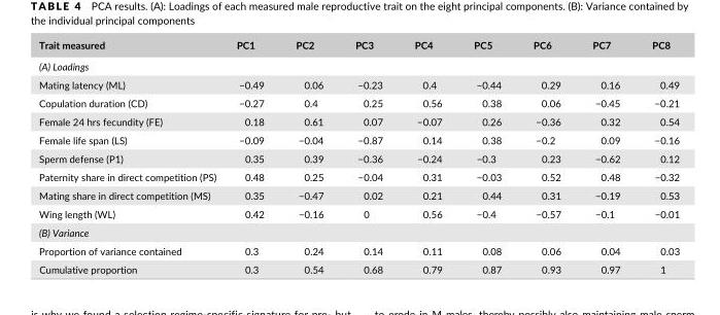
<table><thead><tr><td>Trait measured</td><td>PC1</td><td>PC2</td><td>PC3</td><td>PC4</td><td>PC5</td><td>PC6</td><td>PC7</td><td>PC8</td></tr></thead><tbody><tr><td colspan="9">(A) Loadings</td></tr><tr><td>Mating latency (ML)</td><td>−0.49</td><td>0.06</td><td>−0.23</td><td>0.4</td><td>−0.44</td><td>0.29</td><td>0.16</td><td>0.49</td></tr><tr><td>Copulation duration (CD)</td><td>−0.27</td><td>0.4</td><td>0.25</td><td>0.56</td><td>0.38</td><td>0.06</td><td>−0.45</td><td>−0.21</td></tr><tr><td>Female 24 hrs fecundity (FE)</td><td>0.18</td><td>0.61</td><td>0.07</td><td>−0.07</td><td>0.26</td><td>−0.36</td><td>0.32</td><td>0.54</td></tr><tr><td>Female life span (LS)</td><td>−0.09</td><td>−0.04</td><td>−0.87</td><td>0.14</td><td>0.38</td><td>−0.2</td><td>0.09</td><td>−0.16</td></tr><tr><td>Sperm defense (P1)</td><td>0.35</td><td>0.39</td><td>−0.36</td><td>−0.24</td><td>−0.3</td><td>0.23</td><td>−0.62</td><td>0.12</td></tr><tr><td>Paternity share in direct competition (PS)</td><td>0.48</td><td>0.25</td><td>−0.04</td><td>0.31</td><td>−0.03</td><td>0.52</td><td>0.48</td><td>−0.32</td></tr><tr><td>Mating share in direct competition (MS)</td><td>0.35</td><td>−0.47</td><td>0.02</td><td>0.21</td><td>0.44</td><td>0.31</td><td>−0.19</td><td>0.53</td></tr><tr><td>Wing length (WL)</td><td>0.42</td><td>−0.16</td><td>0</td><td>0.56</td><td>−0.4</td><td>−0.57</td><td>−0.1</td><td>−0.01</td></tr><tr><td colspan="9">(B) Variance</td></tr><tr><td>Proportion of variance contained</td><td>0.3</td><td>0.24</td><td>0.14</td><td>0.11</td><td>0.08</td><td>0.06</td><td>0.04</td><td>0.03</td></tr><tr><td>Cumulative proportion</td><td>0.3</td><td>0.54</td><td>0.68</td><td>0.79</td><td>0.87</td><td>0.93</td><td>0.97</td><td>1</td></tr></tbody></table>